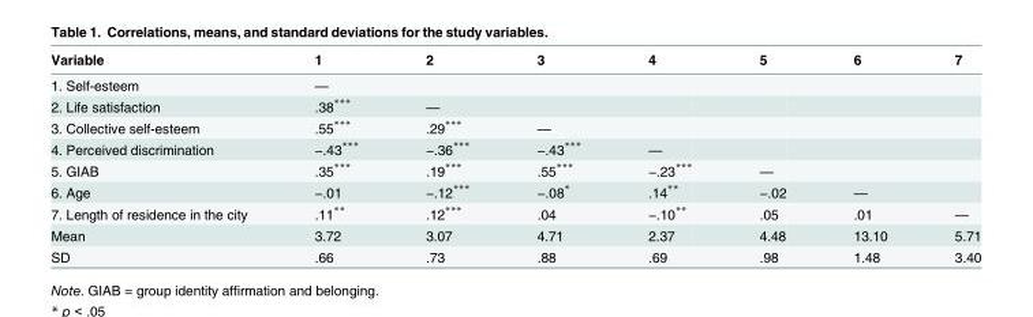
<table><thead><tr><td>Variable</td><td>1</td><td>2</td><td>3</td><td>4</td><td>5</td><td>6</td><td>7</td></tr></thead><tbody><tr><td>1. Self-esteem</td><td>—</td><td></td><td></td><td></td><td></td><td></td><td></td></tr><tr><td>2. Life satisfaction</td><td>.38***</td><td>—</td><td></td><td></td><td></td><td></td><td></td></tr><tr><td>3. Collective self-esteem</td><td>.55***</td><td>.29***</td><td>—</td><td></td><td></td><td></td><td></td></tr><tr><td>4. Perceived discrimination</td><td>−.43***</td><td>−.36***</td><td>−.43***</td><td>—</td><td></td><td></td><td></td></tr><tr><td>5. GIAB</td><td>.35***</td><td>.19***</td><td>.55***</td><td>−.23***</td><td>—</td><td></td><td></td></tr><tr><td>6. Age</td><td>−.01</td><td>−.12***</td><td>−.08*</td><td>.14**</td><td>−.02</td><td>—</td><td></td></tr><tr><td>7. Length of residence in the city</td><td>.11**</td><td>.12***</td><td>.04</td><td>−.10**</td><td>.05</td><td>.01</td><td>—</td></tr><tr><td>Mean</td><td>3.72</td><td>3.07</td><td>4.71</td><td>2.37</td><td>4.48</td><td>13.10</td><td>5.71</td></tr><tr><td>SD</td><td>.66</td><td>.73</td><td>.88</td><td>.69</td><td>.98</td><td>1.48</td><td>3.40</td></tr></tbody></table>